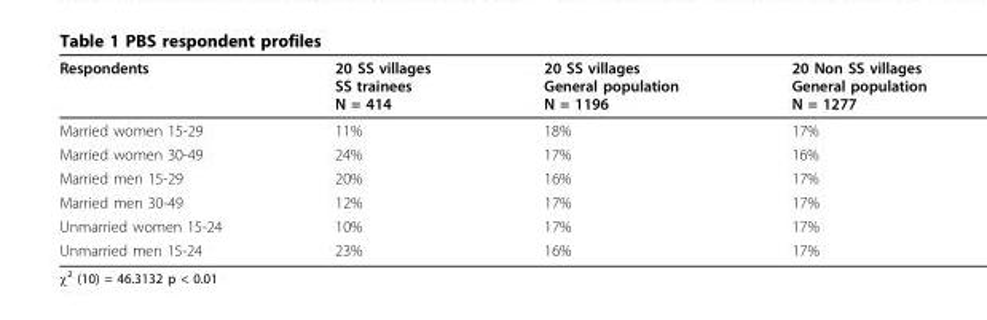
<table><thead><tr><td>Respondents</td><td>20 SS villages SS trainees N = 414</td><td>20 SS villages General population N = 1196</td><td>20 Non SS villages General population N = 1277</td></tr></thead><tbody><tr><td>Married women 15-29</td><td>11%</td><td>18%</td><td>17%</td></tr><tr><td>Married women 30-49</td><td>24%</td><td>17%</td><td>16%</td></tr><tr><td>Married men 15-29</td><td>20%</td><td>16%</td><td>17%</td></tr><tr><td>Married men 30-49</td><td>12%</td><td>17%</td><td>17%</td></tr><tr><td>Unmarried women 15-24</td><td>10%</td><td>17%</td><td>17%</td></tr><tr><td>Unmarried men 15-24</td><td>23%</td><td>16%</td><td>17%</td></tr></tbody></table>